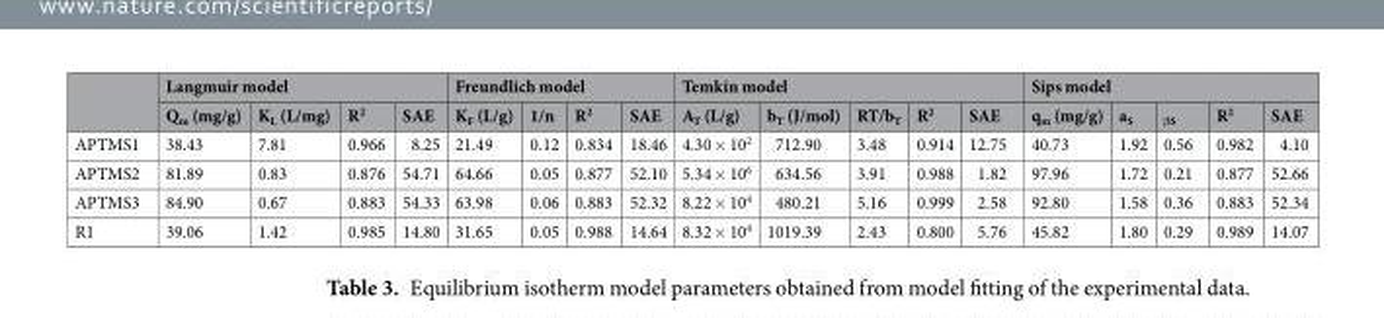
<table><thead><tr><td rowspan="2"></td><td colspan="4">Langmuir model</td><td colspan="4">Freundlich model</td><td colspan="5">Temkin model</td><td colspan="5">Sips model</td></tr><tr><td>Q<sub>m</sub> (mg/g)</td><td>K<sub>L</sub> (L/mg)</td><td>R<sup>2</sup></td><td>SAE</td><td>K<sub>F</sub> (L/g)</td><td>1/n</td><td>R<sup>2</sup></td><td>SAE</td><td>A<sub>T</sub> (L/g)</td><td>b<sub>T</sub> (J/mol)</td><td>RT/b<sub>T</sub></td><td>R<sup>2</sup></td><td>SAE</td><td>q<sub>m</sub> (mg/g)</td><td>a<sub>S</sub></td><td><sub>βS</sub></td><td>R<sup>2</sup></td><td>SAE</td></tr></thead><tbody><tr><td>APTMS1</td><td>38.43</td><td>7.81</td><td>0.966</td><td>8.25</td><td>21.49</td><td>0.12</td><td>0.834</td><td>18.46</td><td>4.30 × 10<sup>2</sup></td><td>712.90</td><td>3.48</td><td>0.914</td><td>12.75</td><td>40.73</td><td>1.92</td><td>0.56</td><td>0.982</td><td>4.10</td></tr><tr><td>APTMS2</td><td>81.89</td><td>0.83</td><td>0.876</td><td>54.71</td><td>64.66</td><td>0.05</td><td>0.877</td><td>52.10</td><td>5.34 × 10<sup>6</sup></td><td>634.56</td><td>3.91</td><td>0.988</td><td>1.82</td><td>97.96</td><td>1.72</td><td>0.21</td><td>0.877</td><td>52.66</td></tr><tr><td>APTMS3</td><td>84.90</td><td>0.67</td><td>0.883</td><td>54.33</td><td>63.98</td><td>0.06</td><td>0.883</td><td>52.32</td><td>8.22 × 10<sup>4</sup></td><td>480.21</td><td>5.16</td><td>0.999</td><td>2.58</td><td>92.80</td><td>1.58</td><td>0.36</td><td>0.883</td><td>52.34</td></tr><tr><td>R1</td><td>39.06</td><td>1.42</td><td>0.985</td><td>14.80</td><td>31.65</td><td>0.05</td><td>0.988</td><td>14.64</td><td>8.32 × 10<sup>4</sup></td><td>1019.39</td><td>2.43</td><td>0.800</td><td>5.76</td><td>45.82</td><td>1.80</td><td>0.29</td><td>0.989</td><td>14.07</td></tr></tbody></table>